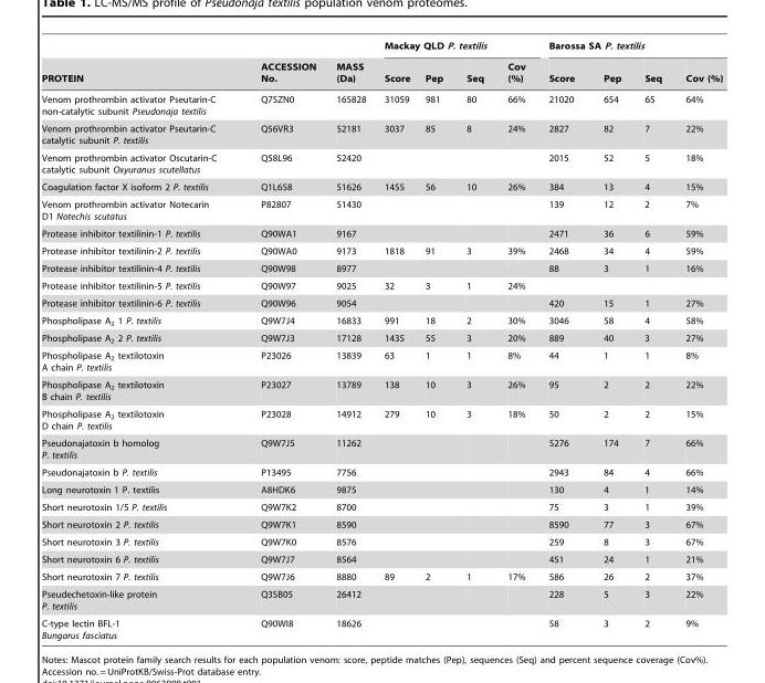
<table><thead><tr><td rowspan="2">PROTEIN</td><td rowspan="2">ACCESSION No.</td><td rowspan="2">MASS (Da)</td><td colspan="4">Mackay QLD P. textilis</td><td colspan="4">Barossa SA P. textilis</td></tr><tr><td>Score</td><td>Pep</td><td>Seq</td><td>Cov (%)</td><td>Score</td><td>Pep</td><td>Seq</td><td>Cov (%)</td></tr></thead><tbody><tr><td>Venom prothrombin activator Pseutarin-C non-catalytic subunit Pseudonaja textilis</td><td>Q7SZN0</td><td>165828</td><td>31059</td><td>981</td><td>80</td><td>66%</td><td>21020</td><td>654</td><td>65</td><td>64%</td></tr><tr><td>Venom prothrombin activator Pseutarin-C catalytic subunit P. textilis</td><td>Q56VR3</td><td>52181</td><td>3037</td><td>85</td><td>8</td><td>24%</td><td>2827</td><td>82</td><td>7</td><td>22%</td></tr><tr><td>Venom prothrombin activator Oscutarin-C catalytic subunit Oxyuranus scutellatus</td><td>Q58L96</td><td>52420</td><td></td><td></td><td></td><td></td><td>2015</td><td>52</td><td>5</td><td>18%</td></tr><tr><td>Coagulation factor X isoform 2 P. textilis</td><td>Q1L658</td><td>51626</td><td>1455</td><td>56</td><td>10</td><td>26%</td><td>384</td><td>13</td><td>4</td><td>15%</td></tr><tr><td>Venom prothrombin activator Notecarin D1 Notechis scutatus</td><td>P82807</td><td>51430</td><td></td><td></td><td></td><td></td><td>139</td><td>12</td><td>2</td><td>7%</td></tr><tr><td>Protease inhibitor textilinin-1 P. textilis</td><td>Q90WA1</td><td>9167</td><td></td><td></td><td></td><td></td><td>2471</td><td>36</td><td>6</td><td>59%</td></tr><tr><td>Protease inhibitor textilinin-2 P. textilis</td><td>Q90WA0</td><td>9173</td><td>1818</td><td>91</td><td>3</td><td>39%</td><td>2468</td><td>34</td><td>4</td><td>59%</td></tr><tr><td>Protease inhibitor textilinin-4 P. textilis</td><td>Q90W98</td><td>8977</td><td></td><td></td><td></td><td></td><td>88</td><td>3</td><td>1</td><td>16%</td></tr><tr><td>Protease inhibitor textilinin-5 P. textilis</td><td>Q90W97</td><td>9025</td><td>32</td><td>3</td><td>1</td><td>24%</td><td></td><td></td><td></td><td></td></tr><tr><td>Protease inhibitor textilinin-6 P. textilis</td><td>Q90W96</td><td>9054</td><td></td><td></td><td></td><td></td><td>420</td><td>15</td><td>1</td><td>27%</td></tr><tr><td>Phospholipase A<sub>2</sub> 1 P. textilis</td><td>Q9W7J4</td><td>16833</td><td>991</td><td>18</td><td>2</td><td>30%</td><td>3046</td><td>58</td><td>4</td><td>58%</td></tr><tr><td>Phospholipase A<sub>2</sub> 2 P. textilis</td><td>Q9W7J3</td><td>17128</td><td>1435</td><td>55</td><td>3</td><td>20%</td><td>889</td><td>40</td><td>3</td><td>27%</td></tr><tr><td>Phospholipase A<sub>2</sub> textilotoxin A chain P. textilis</td><td>P23026</td><td>13839</td><td>63</td><td>1</td><td>1</td><td>8%</td><td>44</td><td>1</td><td>1</td><td>8%</td></tr><tr><td>Phospholipase A<sub>2</sub> textilotoxin B chain P. textilis</td><td>P23027</td><td>13789</td><td>138</td><td>10</td><td>3</td><td>26%</td><td>95</td><td>2</td><td>2</td><td>22%</td></tr><tr><td>Phospholipase A<sub>2</sub> textilotoxin D chain P. textilis</td><td>P23028</td><td>14912</td><td>279</td><td>10</td><td>3</td><td>18%</td><td>50</td><td>2</td><td>2</td><td>15%</td></tr><tr><td>Pseudonajatoxin b homolog P. textilis</td><td>Q9W7J5</td><td>11262</td><td></td><td></td><td></td><td></td><td>5276</td><td>174</td><td>7</td><td>66%</td></tr><tr><td>Pseudonajatoxin b P. textilis</td><td>P13495</td><td>7756</td><td></td><td></td><td></td><td></td><td>2943</td><td>84</td><td>4</td><td>66%</td></tr><tr><td>Long neurotoxin 1 P. textilis</td><td>A8HDK6</td><td>9875</td><td></td><td></td><td></td><td></td><td>130</td><td>4</td><td>1</td><td>14%</td></tr><tr><td>Short neurotoxin 1/5 P. textilis</td><td>Q9W7K2</td><td>8700</td><td></td><td></td><td></td><td></td><td>75</td><td>3</td><td>1</td><td>39%</td></tr><tr><td>Short neurotoxin 2 P. textilis</td><td>Q9W7K1</td><td>8590</td><td></td><td></td><td></td><td></td><td>8590</td><td>77</td><td>3</td><td>67%</td></tr><tr><td>Short neurotoxin 3 P. textilis</td><td>Q9W7K0</td><td>8576</td><td></td><td></td><td></td><td></td><td>259</td><td>8</td><td>3</td><td>67%</td></tr><tr><td>Short neurotoxin 6 P. textilis</td><td>Q9W7J7</td><td>8564</td><td></td><td></td><td></td><td></td><td>451</td><td>24</td><td>1</td><td>21%</td></tr><tr><td>Short neurotoxin 7 P. textilis</td><td>Q9W7J6</td><td>8880</td><td>89</td><td>2</td><td>1</td><td>17%</td><td>586</td><td>26</td><td>2</td><td>37%</td></tr><tr><td>Pseudechetoxin-like protein P. textilis</td><td>Q3SB05</td><td>26412</td><td></td><td></td><td></td><td></td><td>228</td><td>5</td><td>3</td><td>22%</td></tr><tr><td>C-type lectin BFL-1 Bungarus fasciatus</td><td>Q90WI8</td><td>18626</td><td></td><td></td><td></td><td></td><td>58</td><td>3</td><td>2</td><td>9%</td></tr></tbody></table>